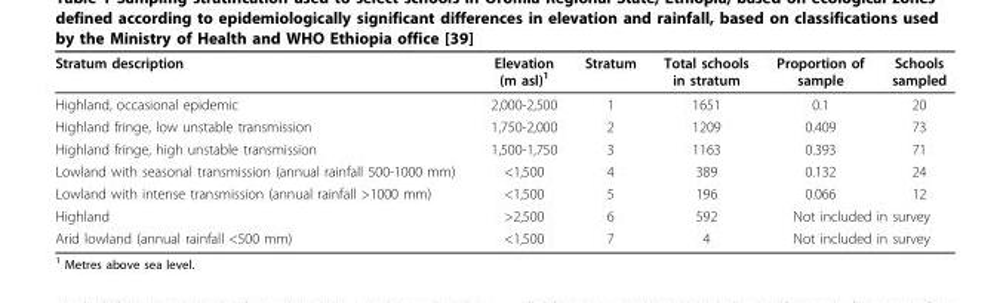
<table><thead><tr><td>Stratum description</td><td>Elevation (m asl)<sup>1</sup></td><td>Stratum</td><td>Total schools in stratum</td><td>Proportion of sample</td><td>Schools sampled</td></tr></thead><tbody><tr><td>Highland, occasional epidemic</td><td>2,000-2,500</td><td>1</td><td>1651</td><td>0.1</td><td>20</td></tr><tr><td>Highland fringe, low unstable transmission</td><td>1,750-2,000</td><td>2</td><td>1209</td><td>0.409</td><td>73</td></tr><tr><td>Highland fringe, high unstable transmission</td><td>1,500-1,750</td><td>3</td><td>1163</td><td>0.393</td><td>71</td></tr><tr><td>Lowland with seasonal transmission (annual rainfall 500-1000 mm)</td><td>&lt;1,500</td><td>4</td><td>389</td><td>0.132</td><td>24</td></tr><tr><td>Lowland with intense transmission (annual rainfall &gt;1000 mm)</td><td>&lt;1,500</td><td>5</td><td>196</td><td>0.066</td><td>12</td></tr><tr><td>Highland</td><td>&gt;2,500</td><td>6</td><td>592</td><td colspan="2">Not included in survey</td></tr><tr><td>Arid lowland (annual rainfall &lt;500 mm)</td><td>&lt;1,500</td><td>7</td><td>4</td><td colspan="2">Not included in survey</td></tr></tbody></table>